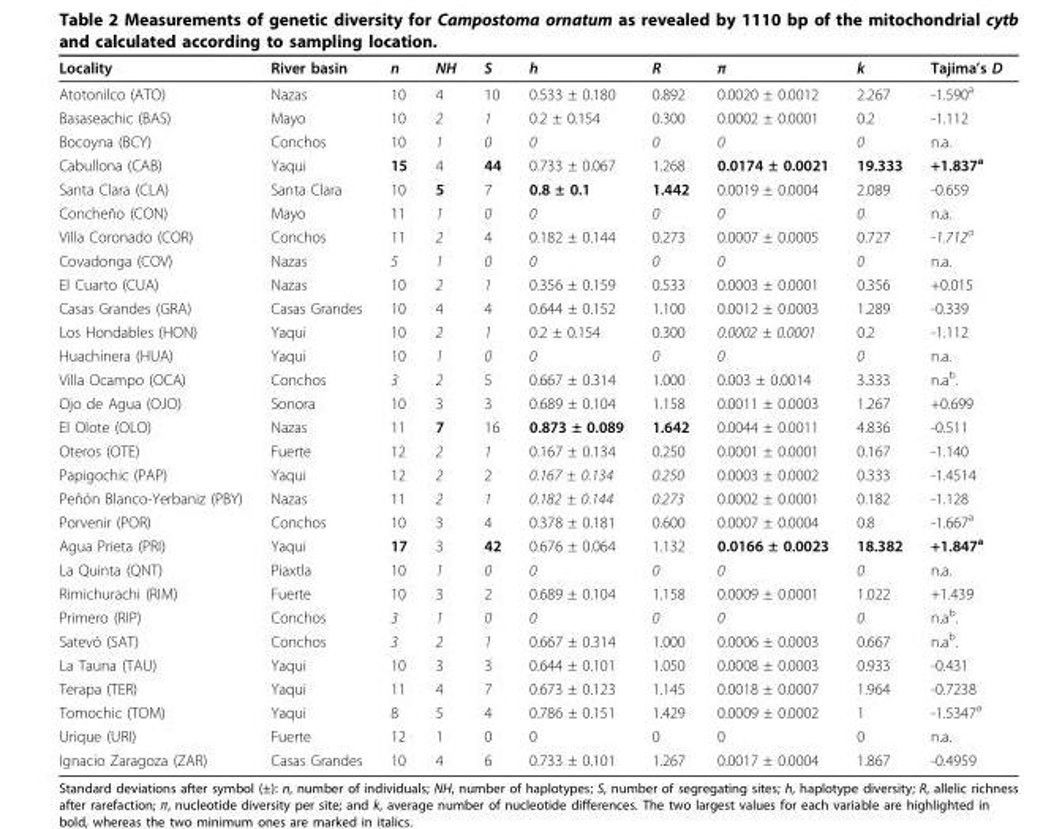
<table><thead><tr><td>Locality</td><td>River basin</td><td>n</td><td>NH</td><td>S</td><td>h</td><td>R</td><td>π</td><td>k</td><td>Tajima’s D</td></tr></thead><tbody><tr><td>Atotonilco (ATO)</td><td>Nazas</td><td>10</td><td>4</td><td>10</td><td>0.533 ± 0.180</td><td>0.892</td><td>0.0020 ± 0.0012</td><td>2.267</td><td>-1.590<sup>a</sup></td></tr><tr><td>Basaseachic (BAS)</td><td>Mayo</td><td>10</td><td>2</td><td>1</td><td>0.2 ± 0.154</td><td>0.300</td><td>0.0002 ± 0.0001</td><td>0.2</td><td>-1.112</td></tr><tr><td>Bocoyna (BCY)</td><td>Conchos</td><td>10</td><td>1</td><td>0</td><td>0</td><td>0</td><td>0</td><td>0</td><td>n.a.</td></tr><tr><td>Cabullona (CAB)</td><td>Yaqui</td><td>15</td><td>4</td><td>44</td><td>0.733 ± 0.067</td><td>1.268</td><td>0.0174 ± 0.0021</td><td>19.333</td><td>+1.837<sup>a</sup></td></tr><tr><td>Santa Clara (CLA)</td><td>Santa Clara</td><td>10</td><td>5</td><td>7</td><td>0.8 ± 0.1</td><td>1.442</td><td>0.0019 ± 0.0004</td><td>2.089</td><td>-0.659</td></tr><tr><td>Concheño (CON)</td><td>Mayo</td><td>11</td><td>1</td><td>0</td><td>0</td><td>0</td><td>0</td><td>0</td><td>n.a.</td></tr><tr><td>Villa Coronado (COR)</td><td>Conchos</td><td>11</td><td>2</td><td>4</td><td>0.182 ± 0.144</td><td>0.273</td><td>0.0007 ± 0.0005</td><td>0.727</td><td>-1.712<sup>a</sup></td></tr><tr><td>Covadonga (COV)</td><td>Nazas</td><td>5</td><td>1</td><td>0</td><td>0</td><td>0</td><td>0</td><td>0</td><td>n.a.</td></tr><tr><td>El Cuarto (CUA)</td><td>Nazas</td><td>10</td><td>2</td><td>1</td><td>0.356 ± 0.159</td><td>0.533</td><td>0.0003 ± 0.0001</td><td>0.356</td><td>+0.015</td></tr><tr><td>Casas Grandes (GRA)</td><td>Casas Grandes</td><td>10</td><td>4</td><td>4</td><td>0.644 ± 0.152</td><td>1.100</td><td>0.0012 ± 0.0003</td><td>1.289</td><td>-0.339</td></tr><tr><td>Los Hondables (HON)</td><td>Yaqui</td><td>10</td><td>2</td><td>1</td><td>0.2 ± 0.154</td><td>0.300</td><td>0.0002 ± 0.0001</td><td>0.2</td><td>-1.112</td></tr><tr><td>Huachinera (HUA)</td><td>Yaqui</td><td>10</td><td>1</td><td>0</td><td>0</td><td>0</td><td>0</td><td>0</td><td>n.a.</td></tr><tr><td>Villa Ocampo (OCA)</td><td>Conchos</td><td>3</td><td>2</td><td>5</td><td>0.667 ± 0.314</td><td>1.000</td><td>0.003 ± 0.0014</td><td>3.333</td><td>n.a<sup>b</sup>.</td></tr><tr><td>Ojo de Agua (OJO)</td><td>Sonora</td><td>10</td><td>3</td><td>3</td><td>0.689 ± 0.104</td><td>1.158</td><td>0.0011 ± 0.0003</td><td>1.267</td><td>+0.699</td></tr><tr><td>El Olote (OLO)</td><td>Nazas</td><td>11</td><td>7</td><td>16</td><td>0.873 ± 0.089</td><td>1.642</td><td>0.0044 ± 0.0011</td><td>4.836</td><td>-0.511</td></tr><tr><td>Oteros (OTE)</td><td>Fuerte</td><td>12</td><td>2</td><td>1</td><td>0.167 ± 0.134</td><td>0.250</td><td>0.0001 ± 0.0001</td><td>0.167</td><td>-1.140</td></tr><tr><td>Papigochic (PAP)</td><td>Yaqui</td><td>12</td><td>2</td><td>2</td><td>0.167 ± 0.134</td><td>0.250</td><td>0.0003 ± 0.0002</td><td>0.333</td><td>-1.4514</td></tr><tr><td>Peñón Blanco-Yerbaniz (PBY)</td><td>Nazas</td><td>11</td><td>2</td><td>1</td><td>0.182 ± 0.144</td><td>0.273</td><td>0.0002 ± 0.0001</td><td>0.182</td><td>-1.128</td></tr><tr><td>Porvenir (POR)</td><td>Conchos</td><td>10</td><td>3</td><td>4</td><td>0.378 ± 0.181</td><td>0.600</td><td>0.0007 ± 0.0004</td><td>0.8</td><td>-1.667<sup>a</sup></td></tr><tr><td>Agua Prieta (PRI)</td><td>Yaqui</td><td>17</td><td>3</td><td>42</td><td>0.676 ± 0.064</td><td>1.132</td><td>0.0166 ± 0.0023</td><td>18.382</td><td>+1.847<sup>a</sup></td></tr><tr><td>La Quinta (QNT)</td><td>Piaxtla</td><td>10</td><td>1</td><td>0</td><td>0</td><td>0</td><td>0</td><td>0</td><td>n.a.</td></tr><tr><td>Rimichurachi (RIM)</td><td>Fuerte</td><td>10</td><td>3</td><td>2</td><td>0.689 ± 0.104</td><td>1.158</td><td>0.0009 ± 0.0001</td><td>1.022</td><td>+1.439</td></tr><tr><td>Primero (RIP)</td><td>Conchos</td><td>3</td><td>1</td><td>0</td><td>0</td><td>0</td><td>0</td><td>0</td><td>n.a<sup>b</sup>.</td></tr><tr><td>Satevó (SAT)</td><td>Conchos</td><td>3</td><td>2</td><td>1</td><td>0.667 ± 0.314</td><td>1.000</td><td>0.0006 ± 0.0003</td><td>0.667</td><td>n.a<sup>b</sup>.</td></tr><tr><td>La Tauna (TAU)</td><td>Yaqui</td><td>10</td><td>3</td><td>3</td><td>0.644 ± 0.101</td><td>1.050</td><td>0.0008 ± 0.0003</td><td>0.933</td><td>-0.431</td></tr><tr><td>Terapa (TER)</td><td>Yaqui</td><td>11</td><td>4</td><td>7</td><td>0.673 ± 0.123</td><td>1.145</td><td>0.0018 ± 0.0007</td><td>1.964</td><td>-0.7238</td></tr><tr><td>Tomochic (TOM)</td><td>Yaqui</td><td>8</td><td>5</td><td>4</td><td>0.786 ± 0.151</td><td>1.429</td><td>0.0009 ± 0.0002</td><td>1</td><td>-1.5347<sup>a</sup></td></tr><tr><td>Urique (URI)</td><td>Fuerte</td><td>12</td><td>1</td><td>0</td><td>0</td><td>0</td><td>0</td><td>0</td><td>n.a.</td></tr><tr><td>Ignacio Zaragoza (ZAR)</td><td>Casas Grandes</td><td>10</td><td>4</td><td>6</td><td>0.733 ± 0.101</td><td>1.267</td><td>0.0017 ± 0.0004</td><td>1.867</td><td>-0.4959</td></tr></tbody></table>